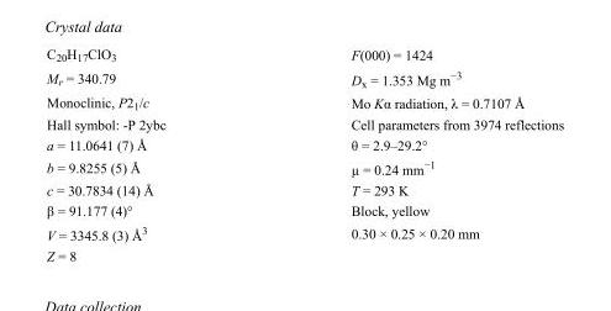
<table><tbody><tr><td>C<sub>20</sub>H<sub>17</sub>ClO<sub>3</sub></td><td>F(000) = 1424</td></tr><tr><td>M<sub>r</sub> = 340.79</td><td>D<sub>x</sub> = 1.353 Mg m<sup>−3</sup></td></tr><tr><td>Monoclinic, P2<sub>1</sub>/c</td><td>Mo Kα radiation, λ = 0.7107 Å</td></tr><tr><td>Hall symbol: -P 2ybc</td><td>Cell parameters from 3974 reflections</td></tr><tr><td>a = 11.0641 (7) Å</td><td>θ = 2.9–29.2°</td></tr><tr><td>b = 9.8255 (5) Å</td><td>µ = 0.24 mm<sup>−1</sup></td></tr><tr><td>c = 30.7834 (14) Å</td><td>T = 293 K</td></tr><tr><td>β = 91.177 (4)°</td><td>Block, yellow</td></tr><tr><td>V = 3345.8 (3) Å<sup>3</sup></td><td>0.30 × 0.25 × 0.20 mm</td></tr><tr><td>Z = 8</td><td></td></tr></tbody></table>